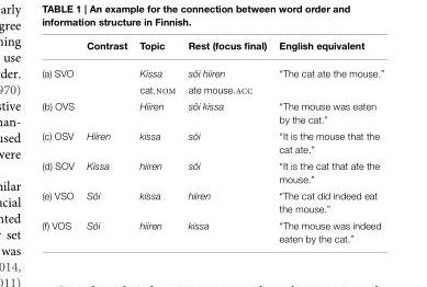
<table><thead><tr><td></td><td>Contrast</td><td>Topic</td><td>Rest (focus final)</td><td>English equivalent</td></tr></thead><tbody><tr><td rowspan="2">(a) SVO</td><td></td><td>Kissa</td><td>söi hiiren</td><td>“The cat ate the mouse.”</td></tr><tr><td></td><td>cat.NOM</td><td>ate mouse.ACC</td><td></td></tr><tr><td>(b) OVS</td><td></td><td>Hiiren</td><td>söi kissa</td><td>“The mouse was eaten by the cat.”</td></tr><tr><td>(c) OSV</td><td>Hiiren</td><td>kissa</td><td>söi</td><td>“It is the mouse that the cat ate.”</td></tr><tr><td>(d) SOV</td><td>Kissa</td><td>hiiren</td><td>söi</td><td>“It is the cat that ate the mouse.”</td></tr><tr><td>(e) VSO</td><td>Söi</td><td>kissa</td><td>hiiren</td><td>“The cat did indeed eat the mouse.”</td></tr><tr><td>(f) VOS</td><td>Söi</td><td>hiiren</td><td>kissa</td><td>“The mouse was indeed eaten by the cat.”</td></tr></tbody></table>